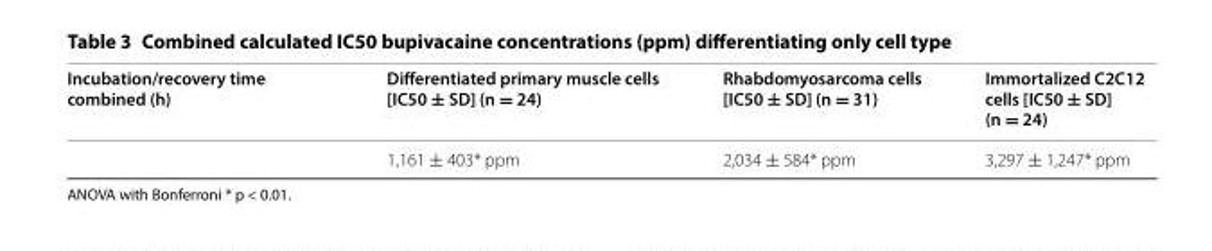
<table><thead><tr><td>Incubation/recovery time combined (h)</td><td>Differentiated primary muscle cells [IC50 ± SD] (n = 24)</td><td>Rhabdomyosarcoma cells [IC50 ± SD] (n = 31)</td><td>Immortalized C2C12 cells [IC50 ± SD] (n = 24)</td></tr></thead><tbody><tr><td></td><td>1,161 ± 403* ppm</td><td>2,034 ± 584* ppm</td><td>3,297 ± 1,247* ppm</td></tr></tbody></table>